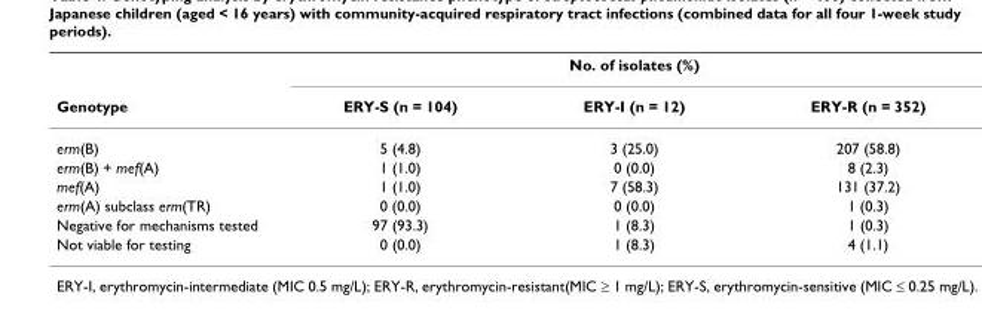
<table><thead><tr><td rowspan="2">Genotype</td><td colspan="3">No. of isolates (%)</td></tr><tr><td>ERY-S (n = 104)</td><td>ERY-I (n = 12)</td><td>ERY-R (n = 352)</td></tr></thead><tbody><tr><td>erm(B)</td><td>5 (4.8)</td><td>3 (25.0)</td><td>207 (58.8)</td></tr><tr><td>erm(B) + mef(A)</td><td>1 (1.0)</td><td>0 (0.0)</td><td>8 (2.3)</td></tr><tr><td>mef(A)</td><td>1 (1.0)</td><td>7 (58.3)</td><td>131 (37.2)</td></tr><tr><td>erm(A) subclass erm(TR)</td><td>0 (0.0)</td><td>0 (0.0)</td><td>1 (0.3)</td></tr><tr><td>Negative for mechanisms tested</td><td>97 (93.3)</td><td>1 (8.3)</td><td>1 (0.3)</td></tr><tr><td>Not viable for testing</td><td>0 (0.0)</td><td>1 (8.3)</td><td>4 (1.1)</td></tr></tbody></table>